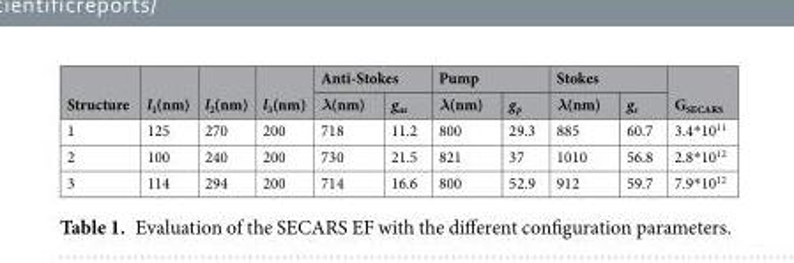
<table><thead><tr><td rowspan="2">Structure</td><td rowspan="2">l<sub>1</sub>(nm)</td><td rowspan="2">l<sub>2</sub>(nm)</td><td rowspan="2">l<sub>3</sub>(nm)</td><td colspan="2">Anti-Stokes</td><td colspan="2">Pump</td><td colspan="2">Stokes</td><td rowspan="2">G<sub>SECARS</sub></td></tr><tr><td>λ(nm)</td><td>g<sub>as</sub></td><td>λ(nm)</td><td>g<sub>p</sub></td><td>λ(nm)</td><td>g<sub>s</sub></td></tr></thead><tbody><tr><td>1</td><td>125</td><td>270</td><td>200</td><td>718</td><td>11.2</td><td>800</td><td>29.3</td><td>885</td><td>60.7</td><td>3.4*10<sup>11</sup></td></tr><tr><td>2</td><td>100</td><td>240</td><td>200</td><td>730</td><td>21.5</td><td>821</td><td>37</td><td>1010</td><td>56.8</td><td>2.8*10<sup>12</sup></td></tr><tr><td>3</td><td>114</td><td>294</td><td>200</td><td>714</td><td>16.6</td><td>800</td><td>52.9</td><td>912</td><td>59.7</td><td>7.9*10<sup>12</sup></td></tr></tbody></table>